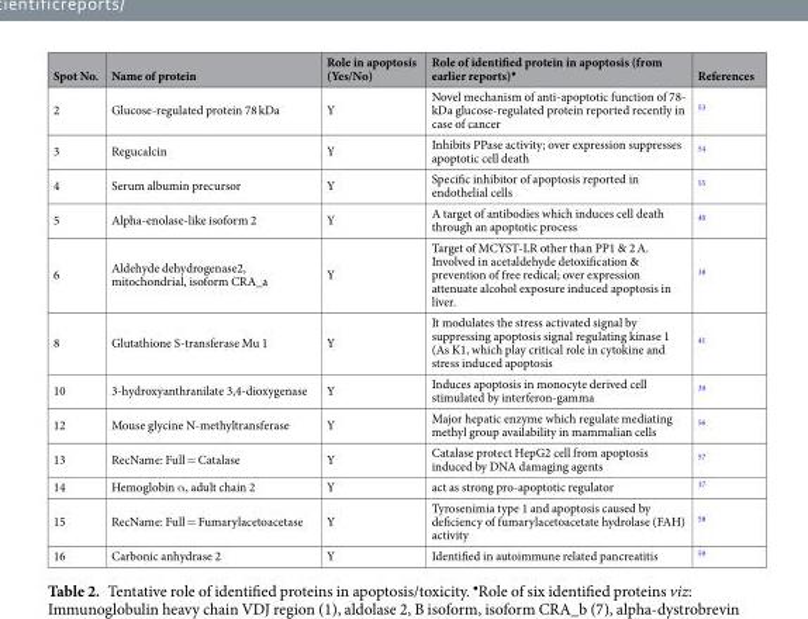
<table><thead><tr><td>Spot No.</td><td>Name of protein</td><td>Role in apoptosis (Yes/No)</td><td>Role of identified protein in apoptosis (from earlier reports)<sup>•</sup></td><td>References</td></tr></thead><tbody><tr><td>2</td><td>Glucose-regulated protein 78 kDa</td><td>Y</td><td>Novel mechanism of anti-apoptotic function of 78- kDa glucose-regulated protein reported recently in case of cancer</td><td><sup>53</sup></td></tr><tr><td>3</td><td>Regucalcin</td><td>Y</td><td>Inhibits PPase activity; over expression suppresses apoptotic cell death</td><td><sup>54</sup></td></tr><tr><td>4</td><td>Serum albumin precursor</td><td>Y</td><td>Specific inhibitor of apoptosis reported in endothelial cells</td><td><sup>55</sup></td></tr><tr><td>5</td><td>Alpha-enolase-like isoform 2</td><td>Y</td><td>A target of antibodies which induces cell death through an apoptotic process</td><td><sup>40</sup></td></tr><tr><td>6</td><td>Aldehyde dehydrogenase2, mitochondrial, isoform CRA_a</td><td>Y</td><td>Target of MCYST-LR other than PP1 &amp; 2 A. Involved in acetaldehyde detoxification &amp; prevention of free redical; over expression attenuate alcohol exposure induced apoptosis in liver.</td><td><sup>38</sup></td></tr><tr><td>8</td><td>Glutathione S-transferase Mu 1</td><td>Y</td><td>It modulates the stress activated signal by suppressing apoptosis signal regulating kinase 1 (As K1, which play critical role in cytokine and stress induced apoptosis</td><td><sup>41</sup></td></tr><tr><td>10</td><td>3-hydroxyanthranilate 3,4-dioxygenase</td><td>Y</td><td>Induces apoptosis in monocyte derived cell stimulated by interferon-gamma</td><td><sup>39</sup></td></tr><tr><td>12</td><td>Mouse glycine N-methyltransferase</td><td>Y</td><td>Major hepatic enzyme which regulate mediating methyl group availability in mammalian cells</td><td><sup>56</sup></td></tr><tr><td>13</td><td>RecName: Full = Catalase</td><td>Y</td><td>Catalase protect HepG2 cell from apoptosis induced by DNA damaging agents</td><td><sup>57</sup></td></tr><tr><td>14</td><td>Hemoglobin α, adult chain 2</td><td>Y</td><td>act as strong pro-apoptotic regulator</td><td><sup>37</sup></td></tr><tr><td>15</td><td>RecName: Full = Fumarylacetoacetase</td><td>Y</td><td>Tyrosenimia type 1 and apoptosis caused by deficiency of fumarylacetoacetate hydrolase (FAH) activity</td><td><sup>58</sup></td></tr><tr><td>16</td><td>Carbonic anhydrase 2</td><td>Y</td><td>Identified in autoimmune related pancreatitis</td><td><sup>59</sup></td></tr></tbody></table>